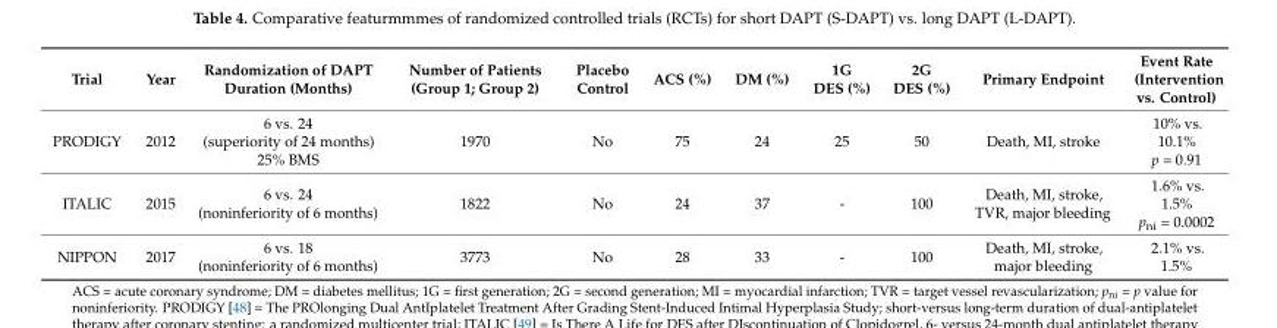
<table><thead><tr><td>Trial</td><td>Year</td><td>Randomization of DAPT Duration (Months)</td><td>Number of Patients (Group 1; Group 2)</td><td>Placebo Control</td><td>ACS (%)</td><td>DM (%)</td><td>1G DES (%)</td><td>2G DES (%)</td><td>Primary Endpoint</td><td>Event Rate (Intervention vs. Control)</td></tr></thead><tbody><tr><td>PRODIGY</td><td>2012</td><td>6 vs. 24 (superiority of 24 months) 25% BMS</td><td>1970</td><td>No</td><td>75</td><td>24</td><td>25</td><td>50</td><td>Death, MI, stroke</td><td>10% vs. 10.1% p = 0.91</td></tr><tr><td>ITALIC</td><td>2015</td><td>6 vs. 24 (noninferiority of 6 months)</td><td>1822</td><td>No</td><td>24</td><td>37</td><td>-</td><td>100</td><td>Death, MI, stroke, TVR, major bleeding</td><td>1.6% vs. 1.5% p<sub>ni</sub> = 0.0002</td></tr><tr><td>NIPPON</td><td>2017</td><td>6 vs. 18 (noninferiority of 6 months)</td><td>3773</td><td>No</td><td>28</td><td>33</td><td>-</td><td>100</td><td>Death, MI, stroke, major bleeding</td><td>2.1% vs. 1.5%</td></tr></tbody></table>